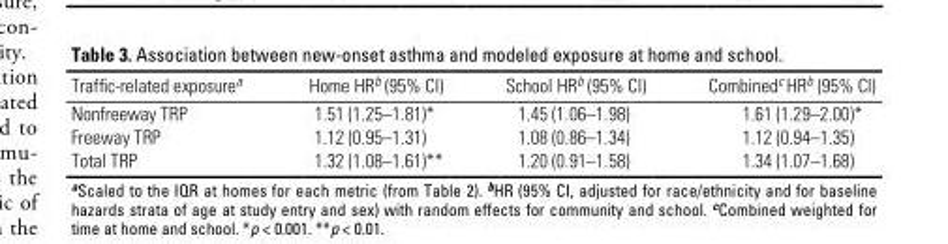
<table><thead><tr><td>Traffic-related exposure<sup>a</sup></td><td>Home HR<sup>b</sup> (95% CI)</td><td>School HR<sup>b</sup> (95% CI)</td><td>Combined<sup>c</sup> HR<sup>b</sup> (95% CI)</td></tr></thead><tbody><tr><td>Nonfreeway TRP</td><td>1.51 (1.25–1.81)*</td><td>1.45 (1.06–1.98)</td><td>1.61 (1.29–2.00)*</td></tr><tr><td>Freeway TRP</td><td>1.12 (0.95–1.31)</td><td>1.08 (0.86–1.34)</td><td>1.12 (0.94–1.35)</td></tr><tr><td>Total TRP</td><td>1.32 (1.08–1.61)**</td><td>1.20 (0.91–1.58)</td><td>1.34 (1.07–1.68)</td></tr></tbody></table>